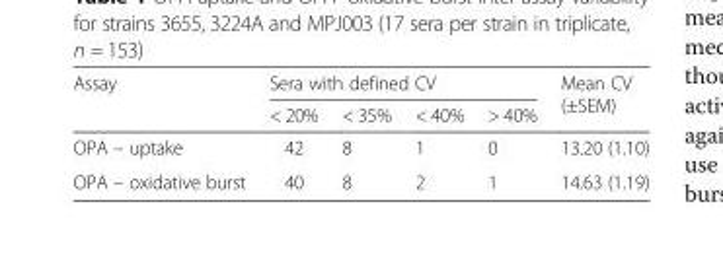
<table><thead><tr><td rowspan="2">Assay</td><td colspan="4">Sera with defined CV</td><td rowspan="2">Mean CV (±SEM)</td></tr><tr><td>&lt; 20%</td><td>&lt; 35%</td><td>&lt; 40%</td><td>&gt; 40%</td></tr></thead><tbody><tr><td>OPA – uptake</td><td>42</td><td>8</td><td>1</td><td>0</td><td>13.20 (1.10)</td></tr><tr><td>OPA – oxidative burst</td><td>40</td><td>8</td><td>2</td><td>1</td><td>14.63 (1.19)</td></tr></tbody></table>